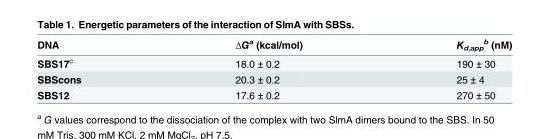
<table><thead><tr><td>DNA</td><td>ΔGa (kcal/mol)</td><td>K<sub>d,app</sub> <sup>b</sup> (nM)</td></tr></thead><tbody><tr><td>SBS17<sup>c</sup></td><td>18.0 ± 0.2</td><td>190 ± 30</td></tr><tr><td>SBScons</td><td>20.3 ± 0.2</td><td>25 ± 4</td></tr><tr><td>SBS12</td><td>17.6 ± 0.2</td><td>270 ± 50</td></tr></tbody></table>